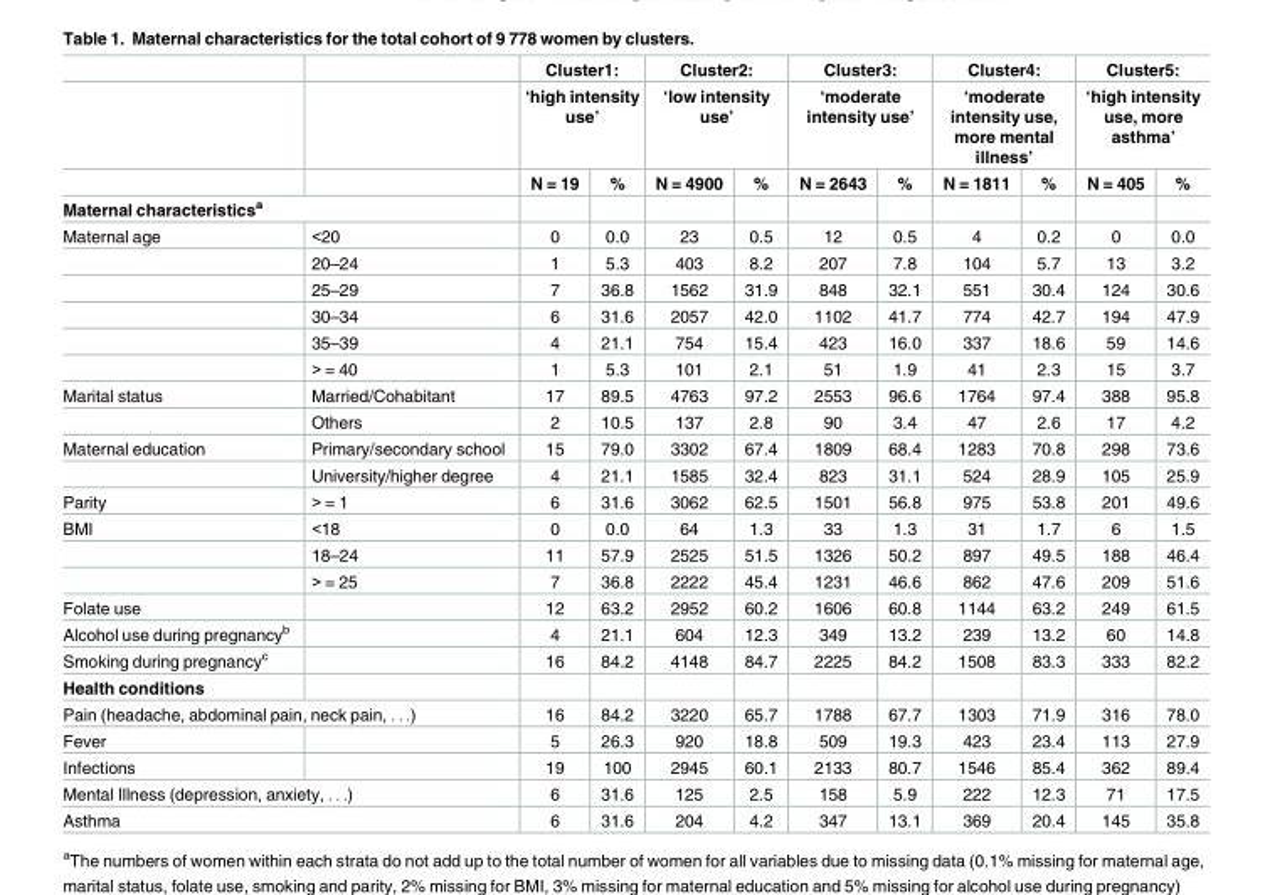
<table><thead><tr><td rowspan="3"></td><td rowspan="3"></td><td rowspan="2" colspan="2">Cluster1: ‘high intensity use’</td><td rowspan="2" colspan="2">Cluster2: ‘low intensity use’</td><td rowspan="2" colspan="2">Cluster3: ‘moderate intensity use’</td><td rowspan="2" colspan="2">Cluster4: ‘moderate intensity use, more mental illness’</td><td rowspan="2" colspan="2">Cluster5: ‘high intensity use, more asthma’</td></tr><tr></tr><tr><td>N = 19</td><td>%</td><td>N = 4900</td><td>%</td><td>N = 2643</td><td>%</td><td>N = 1811</td><td>%</td><td>N = 405</td><td>%</td></tr></thead><tbody><tr><td colspan="12">Maternal characteristics<sup>a</sup></td></tr><tr><td rowspan="6">Maternal age</td><td>&lt;20</td><td>0</td><td>0.0</td><td>23</td><td>0.5</td><td>12</td><td>0.5</td><td>4</td><td>0.2</td><td>0</td><td>0.0</td></tr><tr><td>20–24</td><td>1</td><td>5.3</td><td>403</td><td>8.2</td><td>207</td><td>7.8</td><td>104</td><td>5.7</td><td>13</td><td>3.2</td></tr><tr><td>25–29</td><td>7</td><td>36.8</td><td>1562</td><td>31.9</td><td>848</td><td>32.1</td><td>551</td><td>30.4</td><td>124</td><td>30.6</td></tr><tr><td>30–34</td><td>6</td><td>31.6</td><td>2057</td><td>42.0</td><td>1102</td><td>41.7</td><td>774</td><td>42.7</td><td>194</td><td>47.9</td></tr><tr><td>35–39</td><td>4</td><td>21.1</td><td>754</td><td>15.4</td><td>423</td><td>16.0</td><td>337</td><td>18.6</td><td>59</td><td>14.6</td></tr><tr><td>&gt; = 40</td><td>1</td><td>5.3</td><td>101</td><td>2.1</td><td>51</td><td>1.9</td><td>41</td><td>2.3</td><td>15</td><td>3.7</td></tr><tr><td rowspan="2">Marital status</td><td>Married/Cohabitant</td><td>17</td><td>89.5</td><td>4763</td><td>97.2</td><td>2553</td><td>96.6</td><td>1764</td><td>97.4</td><td>388</td><td>95.8</td></tr><tr><td>Others</td><td>2</td><td>10.5</td><td>137</td><td>2.8</td><td>90</td><td>3.4</td><td>47</td><td>2.6</td><td>17</td><td>4.2</td></tr><tr><td rowspan="2">Maternal education</td><td>Primary/secondary school</td><td>15</td><td>79.0</td><td>3302</td><td>67.4</td><td>1809</td><td>68.4</td><td>1283</td><td>70.8</td><td>298</td><td>73.6</td></tr><tr><td>University/higher degree</td><td>4</td><td>21.1</td><td>1585</td><td>32.4</td><td>823</td><td>31.1</td><td>524</td><td>28.9</td><td>105</td><td>25.9</td></tr><tr><td>Parity</td><td>&gt; = 1</td><td>6</td><td>31.6</td><td>3062</td><td>62.5</td><td>1501</td><td>56.8</td><td>975</td><td>53.8</td><td>201</td><td>49.6</td></tr><tr><td rowspan="3">BMI</td><td>&lt;18</td><td>0</td><td>0.0</td><td>64</td><td>1.3</td><td>33</td><td>1.3</td><td>31</td><td>1.7</td><td>6</td><td>1.5</td></tr><tr><td>18–24</td><td>11</td><td>57.9</td><td>2525</td><td>51.5</td><td>1326</td><td>50.2</td><td>897</td><td>49.5</td><td>188</td><td>46.4</td></tr><tr><td>&gt; = 25</td><td>7</td><td>36.8</td><td>2222</td><td>45.4</td><td>1231</td><td>46.6</td><td>862</td><td>47.6</td><td>209</td><td>51.6</td></tr><tr><td>Folate use</td><td></td><td>12</td><td>63.2</td><td>2952</td><td>60.2</td><td>1606</td><td>60.8</td><td>1144</td><td>63.2</td><td>249</td><td>61.5</td></tr><tr><td>Alcohol use during pregnancy<sup>b</sup></td><td></td><td>4</td><td>21.1</td><td>604</td><td>12.3</td><td>349</td><td>13.2</td><td>239</td><td>13.2</td><td>60</td><td>14.8</td></tr><tr><td>Smoking during pregnancy<sup>c</sup></td><td></td><td>16</td><td>84.2</td><td>4148</td><td>84.7</td><td>2225</td><td>84.2</td><td>1508</td><td>83.3</td><td>333</td><td>82.2</td></tr><tr><td colspan="12">Health conditions</td></tr><tr><td colspan="2">Pain (headache, abdominal pain, neck pain, . . .)</td><td>16</td><td>84.2</td><td>3220</td><td>65.7</td><td>1788</td><td>67.7</td><td>1303</td><td>71.9</td><td>316</td><td>78.0</td></tr><tr><td>Fever</td><td></td><td>5</td><td>26.3</td><td>920</td><td>18.8</td><td>509</td><td>19.3</td><td>423</td><td>23.4</td><td>113</td><td>27.9</td></tr><tr><td>Infections</td><td></td><td>19</td><td>100</td><td>2945</td><td>60.1</td><td>2133</td><td>80.7</td><td>1546</td><td>85.4</td><td>362</td><td>89.4</td></tr><tr><td colspan="2">Mental Illness (depression, anxiety, . . .)</td><td>6</td><td>31.6</td><td>125</td><td>2.5</td><td>158</td><td>5.9</td><td>222</td><td>12.3</td><td>71</td><td>17.5</td></tr><tr><td colspan="2">Asthma</td><td>6</td><td>31.6</td><td>204</td><td>4.2</td><td>347</td><td>13.1</td><td>369</td><td>20.4</td><td>145</td><td>35.8</td></tr></tbody></table>